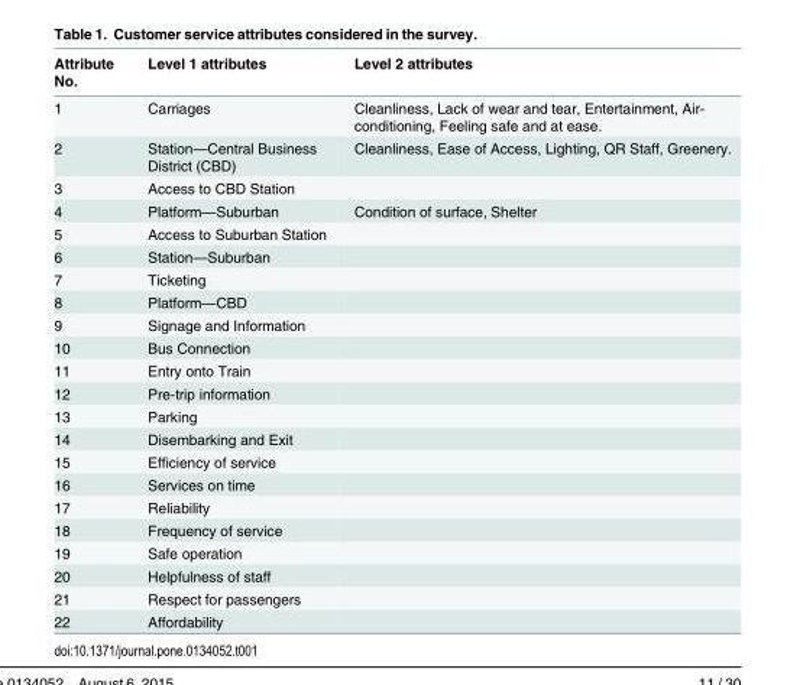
<table><thead><tr><td>Attribute No.</td><td>Level 1 attributes</td><td>Level 2 attributes</td></tr></thead><tbody><tr><td>1</td><td>Carriages</td><td>Cleanliness, Lack of wear and tear, Entertainment, Air- conditioning, Feeling safe and at ease.</td></tr><tr><td>2</td><td>Station—Central Business District (CBD)</td><td>Cleanliness, Ease of Access, Lighting, QR Staff, Greenery.</td></tr><tr><td>3</td><td>Access to CBD Station</td><td></td></tr><tr><td>4</td><td>Platform—Suburban</td><td>Condition of surface, Shelter</td></tr><tr><td>5</td><td>Access to Suburban Station</td><td></td></tr><tr><td>6</td><td>Station—Suburban</td><td></td></tr><tr><td>7</td><td>Ticketing</td><td></td></tr><tr><td>8</td><td>Platform—CBD</td><td></td></tr><tr><td>9</td><td>Signage and Information</td><td></td></tr><tr><td>10</td><td>Bus Connection</td><td></td></tr><tr><td>11</td><td>Entry onto Train</td><td></td></tr><tr><td>12</td><td>Pre-trip information</td><td></td></tr><tr><td>13</td><td>Parking</td><td></td></tr><tr><td>14</td><td>Disembarking and Exit</td><td></td></tr><tr><td>15</td><td>Efficiency of service</td><td></td></tr><tr><td>16</td><td>Services on time</td><td></td></tr><tr><td>17</td><td>Reliability</td><td></td></tr><tr><td>18</td><td>Frequency of service</td><td></td></tr><tr><td>19</td><td>Safe operation</td><td></td></tr><tr><td>20</td><td>Helpfulness of staff</td><td></td></tr><tr><td>21</td><td>Respect for passengers</td><td></td></tr><tr><td>22</td><td>Affordability</td><td></td></tr></tbody></table>